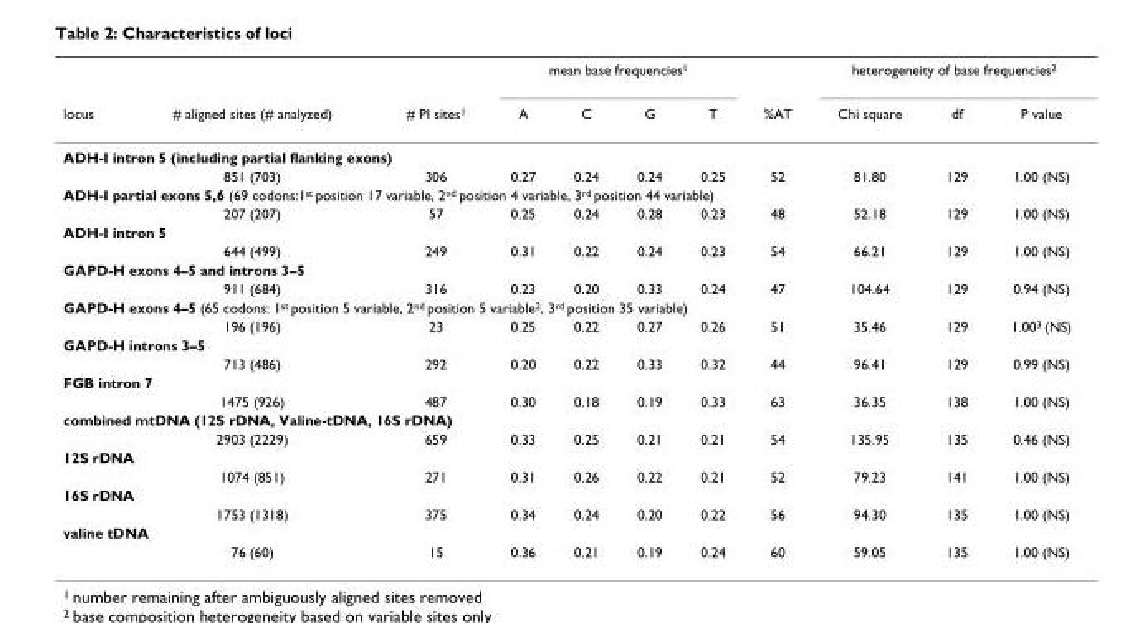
<table><thead><tr><td rowspan="2">locus</td><td rowspan="2"># aligned sites (# analyzed)</td><td rowspan="2"># PI sites<sup>1</sup></td><td colspan="4">mean base frequencies<sup>1</sup></td><td rowspan="2">%AT</td><td colspan="3">heterogeneity of base frequencies<sup>2</sup></td></tr><tr><td>A</td><td>C</td><td>G</td><td>T</td><td>Chi square</td><td>df</td><td>P value</td></tr></thead><tbody><tr><td colspan="11">ADH-I intron 5 (including partial flanking exons)</td></tr><tr><td></td><td>851 (703)</td><td>306</td><td>0.27</td><td>0.24</td><td>0.24</td><td>0.25</td><td>52</td><td>81.80</td><td>129</td><td>1.00 (NS)</td></tr><tr><td colspan="11">ADH-I partial exons 5,6 (69 codons:1<sup>st</sup> position 17 variable, 2<sup>nd</sup> position 4 variable, 3<sup>rd</sup> position 44 variable)</td></tr><tr><td></td><td>207 (207)</td><td>57</td><td>0.25</td><td>0.24</td><td>0.28</td><td>0.23</td><td>48</td><td>52.18</td><td>129</td><td>1.00 (NS)</td></tr><tr><td colspan="11">ADH-I intron 5</td></tr><tr><td></td><td>644 (499)</td><td>249</td><td>0.31</td><td>0.22</td><td>0.24</td><td>0.23</td><td>54</td><td>66.21</td><td>129</td><td>1.00 (NS)</td></tr><tr><td colspan="11">GAPD-H exons 4–5 and introns 3–5</td></tr><tr><td></td><td>911 (684)</td><td>316</td><td>0.23</td><td>0.20</td><td>0.33</td><td>0.24</td><td>47</td><td>104.64</td><td>129</td><td>0.94 (NS)</td></tr><tr><td colspan="11">GAPD-H exons 4–5 (65 codons: 1<sup>st</sup> position 5 variable, 2<sup>nd</sup> position 5 variable<sup>2</sup>, 3<sup>rd</sup> position 35 variable)</td></tr><tr><td></td><td>196 (196)</td><td>23</td><td>0.25</td><td>0.22</td><td>0.27</td><td>0.26</td><td>51</td><td>35.46</td><td>129</td><td>1.00<sup>3</sup> (NS)</td></tr><tr><td colspan="11">GAPD-H introns 3–5</td></tr><tr><td></td><td>713 (486)</td><td>292</td><td>0.20</td><td>0.22</td><td>0.33</td><td>0.32</td><td>44</td><td>96.41</td><td>129</td><td>0.99 (NS)</td></tr><tr><td colspan="11">FGB intron 7</td></tr><tr><td></td><td>1475 (926)</td><td>487</td><td>0.30</td><td>0.18</td><td>0.19</td><td>0.33</td><td>63</td><td>36.35</td><td>138</td><td>1.00 (NS)</td></tr><tr><td colspan="11">combined mtDNA (12S rDNA, Valine-tDNA, 16S rDNA)</td></tr><tr><td></td><td>2903 (2229)</td><td>659</td><td>0.33</td><td>0.25</td><td>0.21</td><td>0.21</td><td>54</td><td>135.95</td><td>135</td><td>0.46 (NS)</td></tr><tr><td colspan="11">12S rDNA</td></tr><tr><td></td><td>1074 (851)</td><td>271</td><td>0.31</td><td>0.26</td><td>0.22</td><td>0.21</td><td>52</td><td>79.23</td><td>141</td><td>1.00 (NS)</td></tr><tr><td colspan="11">16S rDNA</td></tr><tr><td></td><td>1753 (1318)</td><td>375</td><td>0.34</td><td>0.24</td><td>0.20</td><td>0.22</td><td>56</td><td>94.30</td><td>135</td><td>1.00 (NS)</td></tr><tr><td colspan="11">valine tDNA</td></tr><tr><td></td><td>76 (60)</td><td>15</td><td>0.36</td><td>0.21</td><td>0.19</td><td>0.24</td><td>60</td><td>59.05</td><td>135</td><td>1.00 (NS)</td></tr></tbody></table>